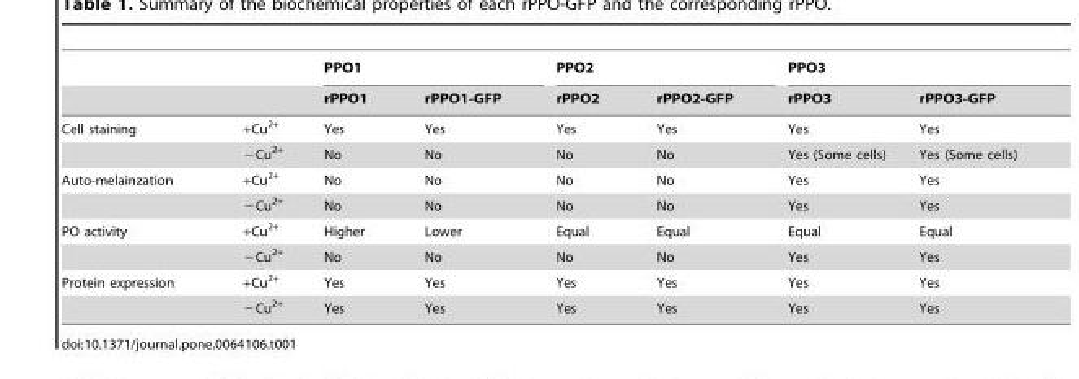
<table><thead><tr><td rowspan="2"></td><td rowspan="2"></td><td colspan="2">PPO1</td><td colspan="2">PPO2</td><td colspan="2">PPO3</td></tr><tr><td>rPPO1</td><td>rPPO1-GFP</td><td>rPPO2</td><td>rPPO2-GFP</td><td>rPPO3</td><td>rPPO3-GFP</td></tr></thead><tbody><tr><td rowspan="2">Cell staining</td><td>+Cu<sup>2+</sup></td><td>Yes</td><td>Yes</td><td>Yes</td><td>Yes</td><td>Yes</td><td>Yes</td></tr><tr><td>−Cu<sup>2+</sup></td><td>No</td><td>No</td><td>No</td><td>No</td><td>Yes (Some cells)</td><td>Yes (Some cells)</td></tr><tr><td rowspan="2">Auto-melainzation</td><td>+Cu<sup>2+</sup></td><td>No</td><td>No</td><td>No</td><td>No</td><td>Yes</td><td>Yes</td></tr><tr><td>−Cu<sup>2+</sup></td><td>No</td><td>No</td><td>No</td><td>No</td><td>Yes</td><td>Yes</td></tr><tr><td rowspan="2">PO activity</td><td>+Cu<sup>2+</sup></td><td>Higher</td><td>Lower</td><td>Equal</td><td>Equal</td><td>Equal</td><td>Equal</td></tr><tr><td>−Cu<sup>2+</sup></td><td>No</td><td>No</td><td>No</td><td>No</td><td>Yes</td><td>Yes</td></tr><tr><td rowspan="2">Protein expression</td><td>+Cu<sup>2+</sup></td><td>Yes</td><td>Yes</td><td>Yes</td><td>Yes</td><td>Yes</td><td>Yes</td></tr><tr><td>−Cu<sup>2+</sup></td><td>Yes</td><td>Yes</td><td>Yes</td><td>Yes</td><td>Yes</td><td>Yes</td></tr></tbody></table>